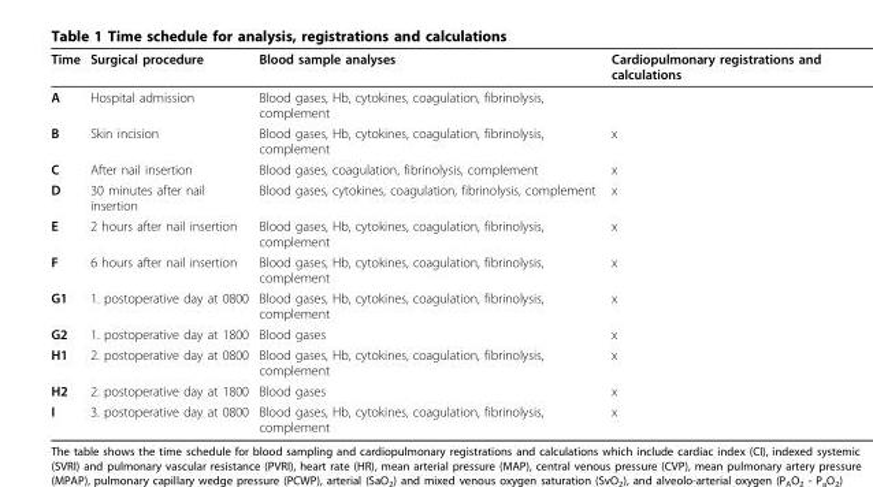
<table><thead><tr><td>Time</td><td>Surgical procedure</td><td>Blood sample analyses</td><td>Cardiopulmonary registrations and calculations</td></tr></thead><tbody><tr><td>A</td><td>Hospital admission</td><td>Blood gases, Hb, cytokines, coagulation, fibrinolysis, complement</td><td></td></tr><tr><td>B</td><td>Skin incision</td><td>Blood gases, Hb, cytokines, coagulation, fibrinolysis, complement</td><td>x</td></tr><tr><td>C</td><td>After nail insertion</td><td>Blood gases, coagulation, fibrinolysis, complement</td><td>x</td></tr><tr><td>D</td><td>30 minutes after nail insertion</td><td>Blood gases, cytokines, coagulation, fibrinolysis, complement</td><td>x</td></tr><tr><td>E</td><td>2 hours after nail insertion</td><td>Blood gases, Hb, cytokines, coagulation, fibrinolysis, complement</td><td>x</td></tr><tr><td>F</td><td>6 hours after nail insertion</td><td>Blood gases, Hb, cytokines, coagulation, fibrinolysis, complement</td><td>x</td></tr><tr><td>G1</td><td>1. postoperative day at 0800</td><td>Blood gases, Hb, cytokines, coagulation, fibrinolysis, complement</td><td>x</td></tr><tr><td>G2</td><td>1. postoperative day at 1800</td><td>Blood gases</td><td>x</td></tr><tr><td>H1</td><td>2. postoperative day at 0800</td><td>Blood gases, Hb, cytokines, coagulation, fibrinolysis, complement</td><td>x</td></tr><tr><td>H2</td><td>2. postoperative day at 1800</td><td>Blood gases</td><td>x</td></tr><tr><td>I</td><td>3. postoperative day at 0800</td><td>Blood gases, Hb, cytokines, coagulation, fibrinolysis, complement</td><td>x</td></tr></tbody></table>